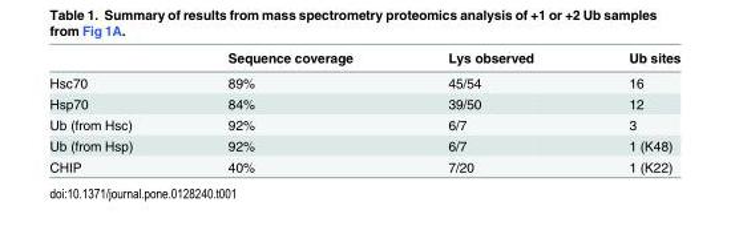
<table><thead><tr><td></td><td>Sequence coverage</td><td>Lys observed</td><td>Ub sites</td></tr></thead><tbody><tr><td>Hsc70</td><td>89%</td><td>45/54</td><td>16</td></tr><tr><td>Hsp70</td><td>84%</td><td>39/50</td><td>12</td></tr><tr><td>Ub (from Hsc)</td><td>92%</td><td>6/7</td><td>3</td></tr><tr><td>Ub (from Hsp)</td><td>92%</td><td>6/7</td><td>1 (K48)</td></tr><tr><td>CHIP</td><td>40%</td><td>7/20</td><td>1 (K22)</td></tr></tbody></table>